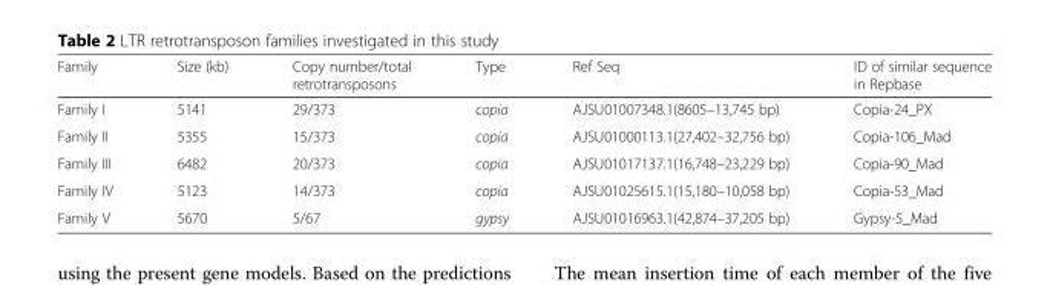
<table><thead><tr><td>Family</td><td>Size (kb)</td><td>Copy number/total retrotransposons</td><td>Type</td><td>Ref Seq</td><td>ID of similar sequence in Repbase</td></tr></thead><tbody><tr><td>Family I</td><td>5141</td><td>29/373</td><td>copia</td><td>AJSU01007348.1(8605–13,745 bp)</td><td>Copia-24_PX</td></tr><tr><td>Family II</td><td>5355</td><td>15/373</td><td>copia</td><td>AJSU01000113.1(27,402–32,756 bp)</td><td>Copia-106_Mad</td></tr><tr><td>Family III</td><td>6482</td><td>20/373</td><td>copia</td><td>AJSU01017137.1(16,748–23,229 bp)</td><td>Copia-90_Mad</td></tr><tr><td>Family IV</td><td>5123</td><td>14/373</td><td>copia</td><td>AJSU01025615.1(15,180–10,058 bp)</td><td>Copia-53_Mad</td></tr><tr><td>Family V</td><td>5670</td><td>5/67</td><td>gypsy</td><td>AJSU01016963.1(42,874–37,205 bp)</td><td>Gypsy-5_Mad</td></tr></tbody></table>